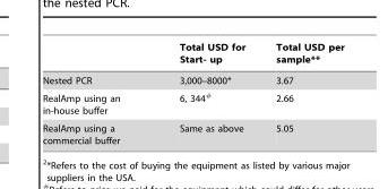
<table><thead><tr><td></td><td>Total USD for Start- up</td><td>Total USD per sample**</td></tr></thead><tbody><tr><td>Nested PCR</td><td>3,000–8000*</td><td>3.67</td></tr><tr><td>RealAmp using an in-house buffer</td><td>6, 344#</td><td>2.66</td></tr><tr><td>RealAmp using a commercial buffer</td><td>Same as above</td><td>5.05</td></tr></tbody></table>